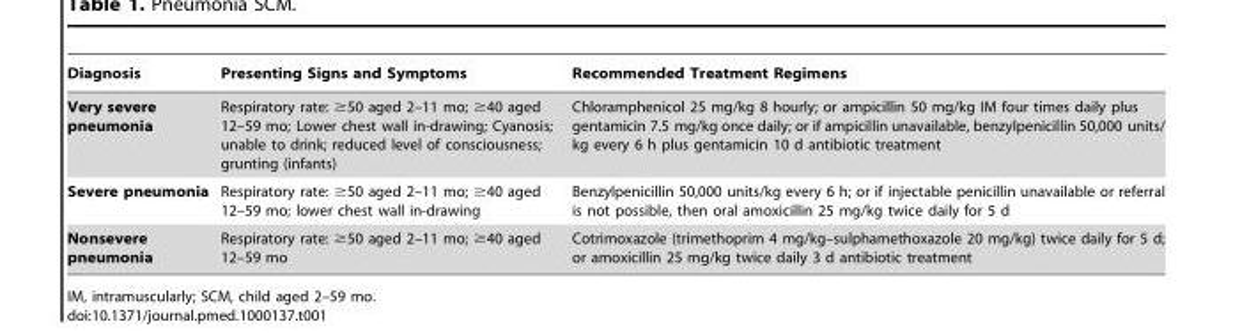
<table><thead><tr><td>Diagnosis</td><td>Presenting Signs and Symptoms</td><td>Recommended Treatment Regimens</td></tr></thead><tbody><tr><td>Very severe pneumonia</td><td>Respiratory rate: ≥50 aged 2–11 mo; ≥40 aged 12–59 mo; Lower chest wall in-drawing; Cyanosis; unable to drink; reduced level of consciousness; grunting (infants)</td><td>Chloramphenicol 25 mg/kg 8 hourly; or ampicillin 50 mg/kg IM four times daily plus gentamicin 7.5 mg/kg once daily; or if ampicillin unavailable, benzylpenicillin 50,000 units/ kg every 6 h plus gentamicin 10 d antibiotic treatment</td></tr><tr><td>Severe pneumonia</td><td>Respiratory rate: ≥50 aged 2–11 mo; ≥40 aged 12–59 mo; lower chest wall in-drawing</td><td>Benzylpenicillin 50,000 units/kg every 6 h; or if injectable penicillin unavailable or referral is not possible, then oral amoxicillin 25 mg/kg twice daily for 5 d</td></tr><tr><td>Nonsevere pneumonia</td><td>Respiratory rate: ≥50 aged 2–11 mo; ≥40 aged 12–59 mo</td><td>Cotrimoxazole (trimethoprim 4 mg/kg–sulphamethoxazole 20 mg/kg) twice daily for 5 d; or amoxicillin 25 mg/kg twice daily 3 d antibiotic treatment</td></tr></tbody></table>